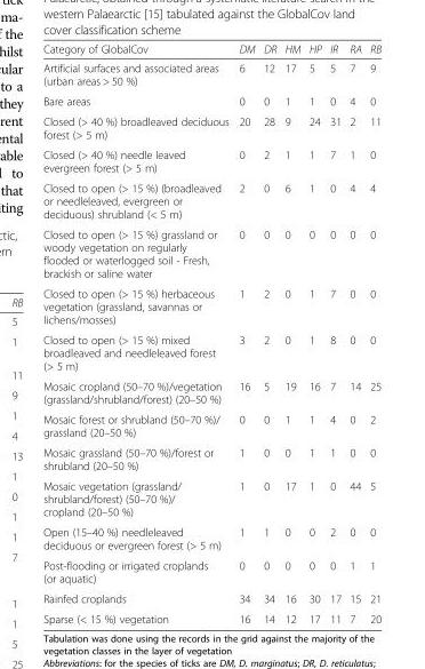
<table><thead><tr><td>Category of GlobalCov</td><td>DM</td><td>DR</td><td>HM</td><td>HP</td><td>IR</td><td>RA</td><td>RB</td></tr></thead><tbody><tr><td>Artificial surfaces and associated areas (urban areas &gt; 50 %)</td><td>6</td><td>12</td><td>17</td><td>5</td><td>5</td><td>7</td><td>9</td></tr><tr><td>Bare areas</td><td>0</td><td>0</td><td>1</td><td>1</td><td>0</td><td>4</td><td>0</td></tr><tr><td>Closed (&gt; 40 %) broadleaved deciduous forest (&gt; 5 m)</td><td>20</td><td>28</td><td>9</td><td>24</td><td>31</td><td>2</td><td>11</td></tr><tr><td>Closed (&gt; 40 %) needle leaved evergreen forest (&gt; 5 m)</td><td>0</td><td>2</td><td>1</td><td>1</td><td>7</td><td>1</td><td>0</td></tr><tr><td>Closed to open (&gt; 15 %) (broadleaved or needleleaved, evergreen or deciduous) shrubland (&lt; 5 m)</td><td>2</td><td>0</td><td>6</td><td>1</td><td>0</td><td>4</td><td>4</td></tr><tr><td>Closed to open (&gt; 15 %) grassland or woody vegetation on regularly flooded or waterlogged soil - Fresh, brackish or saline water</td><td>0</td><td>0</td><td>0</td><td>0</td><td>0</td><td>0</td><td>0</td></tr><tr><td>Closed to open (&gt; 15 %) herbaceous vegetation (grassland, savannas or lichens/mosses)</td><td>1</td><td>2</td><td>0</td><td>1</td><td>7</td><td>0</td><td>0</td></tr><tr><td>Closed to open (&gt; 15 %) mixed broadleaved and needleleaved forest (&gt; 5 m)</td><td>3</td><td>2</td><td>0</td><td>1</td><td>8</td><td>0</td><td>0</td></tr><tr><td>Mosaic cropland (50–70 %)/vegetation (grassland/shrubland/forest) (20–50 %)</td><td>16</td><td>5</td><td>19</td><td>16</td><td>7</td><td>14</td><td>25</td></tr><tr><td>Mosaic forest or shrubland (50–70 %)/ grassland (20–50 %)</td><td>0</td><td>0</td><td>1</td><td>1</td><td>4</td><td>0</td><td>2</td></tr><tr><td>Mosaic grassland (50–70 %)/forest or shrubland (20–50 %)</td><td>1</td><td>0</td><td>0</td><td>1</td><td>1</td><td>0</td><td>0</td></tr><tr><td>Mosaic vegetation (grassland/ shrubland/forest) (50–70 %)/ cropland (20–50 %)</td><td>1</td><td>0</td><td>17</td><td>1</td><td>0</td><td>44</td><td>5</td></tr><tr><td>Open (15–40 %) needleleaved deciduous or evergreen forest (&gt; 5 m)</td><td>1</td><td>1</td><td>0</td><td>0</td><td>2</td><td>0</td><td>0</td></tr><tr><td>Post-flooding or irrigated croplands (or aquatic)</td><td>0</td><td>0</td><td>0</td><td>0</td><td>0</td><td>1</td><td>1</td></tr><tr><td>Rainfed croplands</td><td>34</td><td>34</td><td>16</td><td>30</td><td>17</td><td>15</td><td>21</td></tr><tr><td>Sparse (&lt; 15 %) vegetation</td><td>16</td><td>14</td><td>12</td><td>17</td><td>11</td><td>7</td><td>20</td></tr></tbody></table>